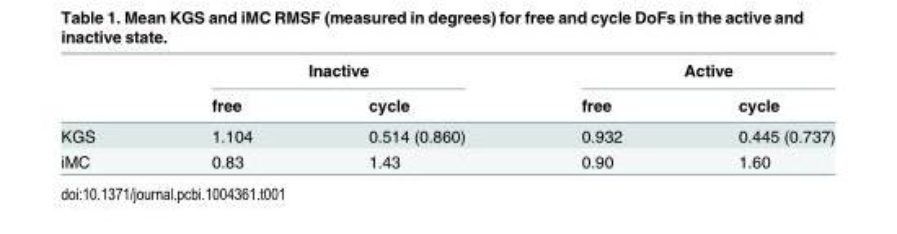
<table><thead><tr><td rowspan="2"></td><td colspan="2">Inactive</td><td colspan="2">Active</td></tr><tr><td>free</td><td>cycle</td><td>free</td><td>cycle</td></tr></thead><tbody><tr><td>KGS</td><td>1.104</td><td>0.514 (0.860)</td><td>0.932</td><td>0.445 (0.737)</td></tr><tr><td>iMC</td><td>0.83</td><td>1.43</td><td>0.90</td><td>1.60</td></tr></tbody></table>